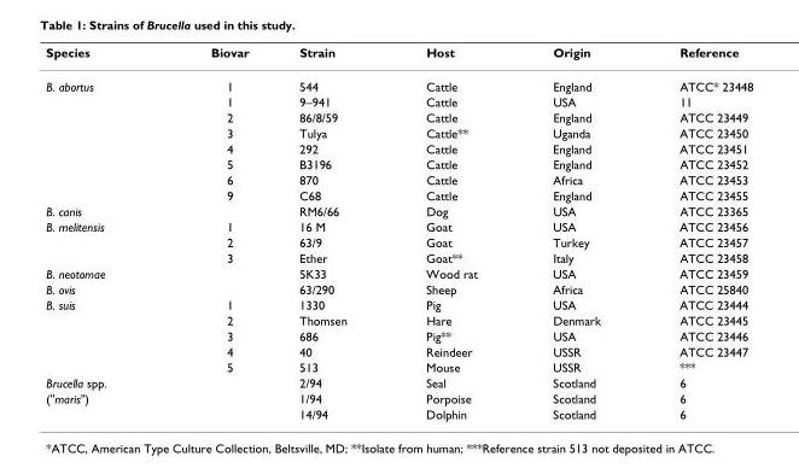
<table><thead><tr><td>Species</td><td>Biovar</td><td>Strain</td><td>Host</td><td>Origin</td><td>Reference</td></tr></thead><tbody><tr><td rowspan="8">B. abortus</td><td>1</td><td>544</td><td>Cattle</td><td>England</td><td>ATCC* 23448</td></tr><tr><td>1</td><td>9–941</td><td>Cattle</td><td>USA</td><td>11</td></tr><tr><td>2</td><td>86/8/59</td><td>Cattle</td><td>England</td><td>ATCC 23449</td></tr><tr><td>3</td><td>Tulya</td><td>Cattle**</td><td>Uganda</td><td>ATCC 23450</td></tr><tr><td>4</td><td>292</td><td>Cattle</td><td>England</td><td>ATCC 23451</td></tr><tr><td>5</td><td>B3196</td><td>Cattle</td><td>England</td><td>ATCC 23452</td></tr><tr><td>6</td><td>870</td><td>Cattle</td><td>Africa</td><td>ATCC 23453</td></tr><tr><td>9</td><td>C68</td><td>Cattle</td><td>England</td><td>ATCC 23455</td></tr><tr><td>B. canis</td><td></td><td>RM6/66</td><td>Dog</td><td>USA</td><td>ATCC 23365</td></tr><tr><td rowspan="3">B. melitensis</td><td>1</td><td>16 M</td><td>Goat</td><td>USA</td><td>ATCC 23456</td></tr><tr><td>2</td><td>63/9</td><td>Goat</td><td>Turkey</td><td>ATCC 23457</td></tr><tr><td>3</td><td>Ether</td><td>Goat**</td><td>Italy</td><td>ATCC 23458</td></tr><tr><td>B. neotomae</td><td></td><td>5K33</td><td>Wood rat</td><td>USA</td><td>ATCC 23459</td></tr><tr><td>B. ovis</td><td></td><td>63/290</td><td>Sheep</td><td>Africa</td><td>ATCC 25840</td></tr><tr><td rowspan="5">B. suis</td><td>1</td><td>1330</td><td>Pig</td><td>USA</td><td>ATCC 23444</td></tr><tr><td>2</td><td>Thomsen</td><td>Hare</td><td>Denmark</td><td>ATCC 23445</td></tr><tr><td>3</td><td>686</td><td>Pig**</td><td>USA</td><td>ATCC 23446</td></tr><tr><td>4</td><td>40</td><td>Reindeer</td><td>USSR</td><td>ATCC 23447</td></tr><tr><td>5</td><td>513</td><td>Mouse</td><td>USSR</td><td>***</td></tr><tr><td>Brucella spp.</td><td></td><td>2/94</td><td>Seal</td><td>Scotland</td><td>6</td></tr><tr><td rowspan="2">(&quot;maris&quot;)</td><td></td><td>1/94</td><td>Porpoise</td><td>Scotland</td><td>6</td></tr><tr><td></td><td>14/94</td><td>Dolphin</td><td>Scotland</td><td>6</td></tr></tbody></table>